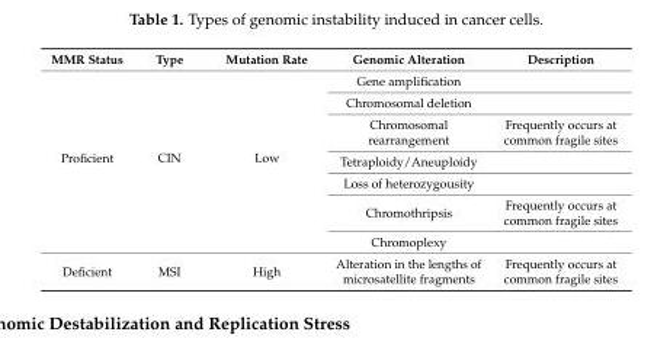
<table><thead><tr><td>MMR Status</td><td>Type</td><td>Mutation Rate</td><td>Genomic Alteration</td><td>Description</td></tr></thead><tbody><tr><td rowspan="7">Proficient</td><td rowspan="7">CIN</td><td rowspan="7">Low</td><td>Gene amplification</td><td></td></tr><tr><td>Chromosomal deletion</td><td></td></tr><tr><td>Chromosomal rearrangement</td><td>Frequently occurs at common fragile sites</td></tr><tr><td>Tetraploidy/Aneuploidy</td><td></td></tr><tr><td>Loss of heterozygousity</td><td></td></tr><tr><td>Chromothripsis</td><td>Frequently occurs at common fragile sites</td></tr><tr><td>Chromoplexy</td><td></td></tr><tr><td>Deficient</td><td>MSI</td><td>High</td><td>Alteration in the lengths of microsatellite fragments</td><td>Frequently occurs at common fragile sites</td></tr></tbody></table>